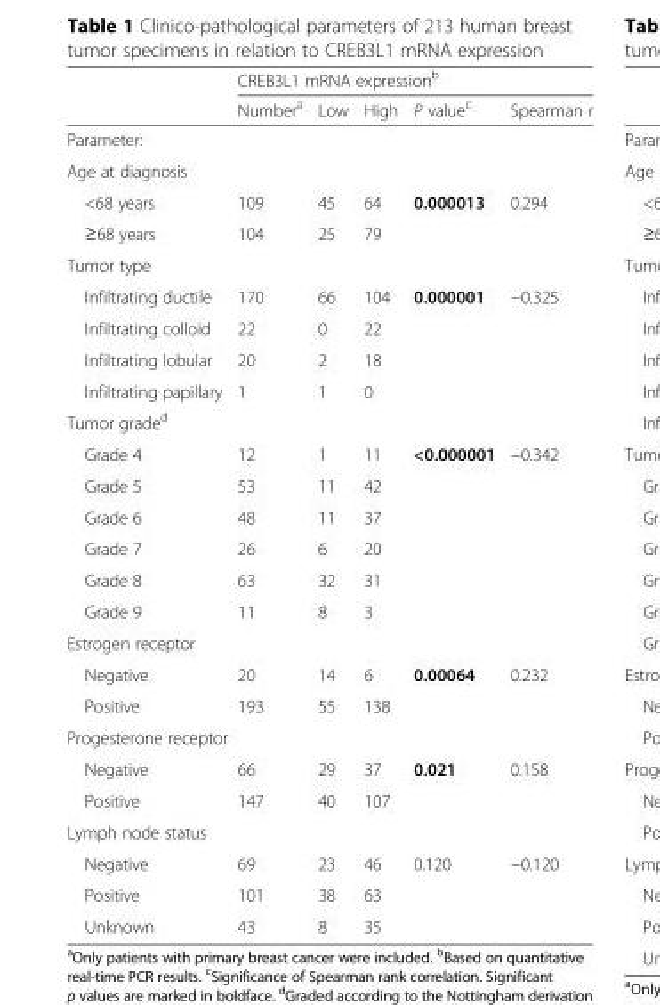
<table><thead><tr><td rowspan="2"></td><td colspan="5">CREB3L1 mRNA expression<sup>b</sup></td></tr><tr><td>Number<sup>a</sup></td><td>Low</td><td>High</td><td>P value<sup>c</sup></td><td>Spearman r</td></tr></thead><tbody><tr><td colspan="6">Parameter:</td></tr><tr><td colspan="6">Age at diagnosis</td></tr><tr><td>&lt;68 years</td><td>109</td><td>45</td><td>64</td><td>0.000013</td><td>0.294</td></tr><tr><td>≥68 years</td><td>104</td><td>25</td><td>79</td><td></td><td></td></tr><tr><td colspan="6">Tumor type</td></tr><tr><td>Infiltrating ductile</td><td>170</td><td>66</td><td>104</td><td>0.000001</td><td>−0.325</td></tr><tr><td>Infiltrating colloid</td><td>22</td><td>0</td><td>22</td><td></td><td></td></tr><tr><td>Infiltrating lobular</td><td>20</td><td>2</td><td>18</td><td></td><td></td></tr><tr><td>Infiltrating papillary</td><td>1</td><td>1</td><td>0</td><td></td><td></td></tr><tr><td colspan="6">Tumor grade<sup>d</sup></td></tr><tr><td>Grade 4</td><td>12</td><td>1</td><td>11</td><td>&lt;0.000001</td><td>−0.342</td></tr><tr><td>Grade 5</td><td>53</td><td>11</td><td>42</td><td></td><td></td></tr><tr><td>Grade 6</td><td>48</td><td>11</td><td>37</td><td></td><td></td></tr><tr><td>Grade 7</td><td>26</td><td>6</td><td>20</td><td></td><td></td></tr><tr><td>Grade 8</td><td>63</td><td>32</td><td>31</td><td></td><td></td></tr><tr><td>Grade 9</td><td>11</td><td>8</td><td>3</td><td></td><td></td></tr><tr><td colspan="6">Estrogen receptor</td></tr><tr><td>Negative</td><td>20</td><td>14</td><td>6</td><td>0.00064</td><td>0.232</td></tr><tr><td>Positive</td><td>193</td><td>55</td><td>138</td><td></td><td></td></tr><tr><td colspan="6">Progesterone receptor</td></tr><tr><td>Negative</td><td>66</td><td>29</td><td>37</td><td>0.021</td><td>0.158</td></tr><tr><td>Positive</td><td>147</td><td>40</td><td>107</td><td></td><td></td></tr><tr><td colspan="6">Lymph node status</td></tr><tr><td>Negative</td><td>69</td><td>23</td><td>46</td><td>0.120</td><td>−0.120</td></tr><tr><td>Positive</td><td>101</td><td>38</td><td>63</td><td></td><td></td></tr><tr><td>Unknown</td><td>43</td><td>8</td><td>35</td><td></td><td></td></tr></tbody></table>